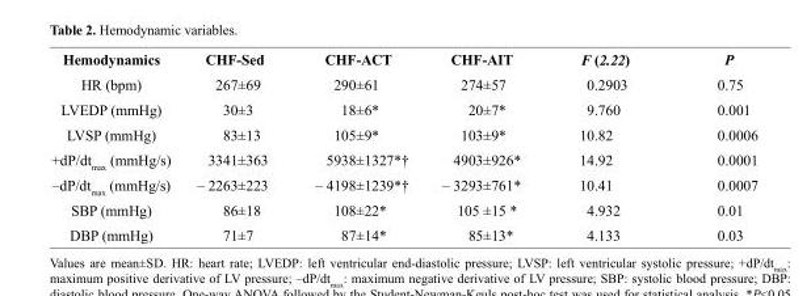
<table><thead><tr><td>Hemodynamics</td><td>CHF-Sed</td><td>CHF-ACT</td><td>CHF-AIT</td><td>F (2.22)</td><td>P</td></tr></thead><tbody><tr><td>HR (bpm)</td><td>267±69</td><td>290±61</td><td>274±57</td><td>0.2903</td><td>0.75</td></tr><tr><td>LVEDP (mmHg)</td><td>30±3</td><td>18±6*</td><td>20±7*</td><td>9.760</td><td>0.001</td></tr><tr><td>LVSP (mmHg)</td><td>83±13</td><td>105±9*</td><td>103±9*</td><td>10.82</td><td>0.0006</td></tr><tr><td>+dP/dt<sub>max</sub> (mmHg/s)</td><td>3341±363</td><td>5938±1327<sup>*†</sup></td><td>4903±926*</td><td>14.92</td><td>0.0001</td></tr><tr><td>–dP/dt<sub>max</sub> (mmHg/s)</td><td>– 2263±223</td><td>– 4198±1239<sup>*†</sup></td><td>– 3293±761*</td><td>10.41</td><td>0.0007</td></tr><tr><td>SBP (mmHg)</td><td>86±18</td><td>108±22*</td><td>105 ±15 *</td><td>4.932</td><td>0.01</td></tr><tr><td>DBP (mmHg)</td><td>71±7</td><td>87±14*</td><td>85±13*</td><td>4.133</td><td>0.03</td></tr></tbody></table>